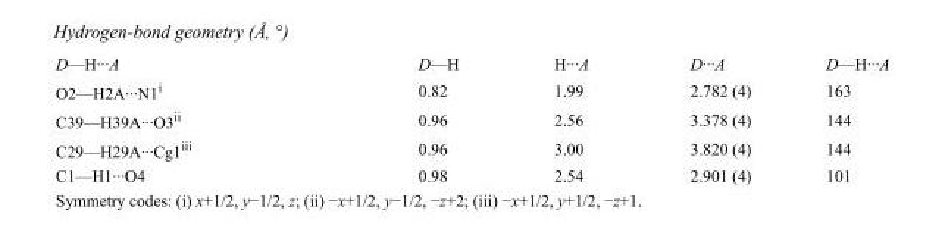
<table><tbody><tr><td>D—H···A</td><td>D—H</td><td>H···A</td><td>D···A</td><td>D—H···A</td></tr><tr><td>O2—H2A···N1<sup>i</sup></td><td>0.82</td><td>1.99</td><td>2.782 (4)</td><td>163</td></tr><tr><td>C39—H39A···O3<sup>ii</sup></td><td>0.96</td><td>2.56</td><td>3.378 (4)</td><td>144</td></tr><tr><td>C29—H29A···Cg1<sup>iii</sup></td><td>0.96</td><td>3.00</td><td>3.820 (4)</td><td>144</td></tr><tr><td>C1—H1···O4</td><td>0.98</td><td>2.54</td><td>2.901 (4)</td><td>101</td></tr></tbody></table>